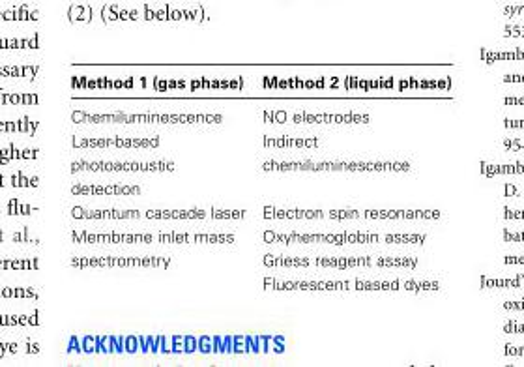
<table><thead><tr><td>Method 1 (gas phase)</td><td>Method 2 (liquid phase)</td></tr></thead><tbody><tr><td>Chemiluminescence</td><td>NO electrodes</td></tr><tr><td>Laser-based photoacoustic detection</td><td>Indirect chemiluminescence</td></tr><tr><td>Quantum cascade laser</td><td>Electron spin resonance</td></tr><tr><td rowspan="3">Membrane inlet mass spectrometry</td><td>Oxyhemoglobin assay</td></tr><tr><td>Griess reagent assay</td></tr><tr><td>Fluorescent based dyes</td></tr></tbody></table>